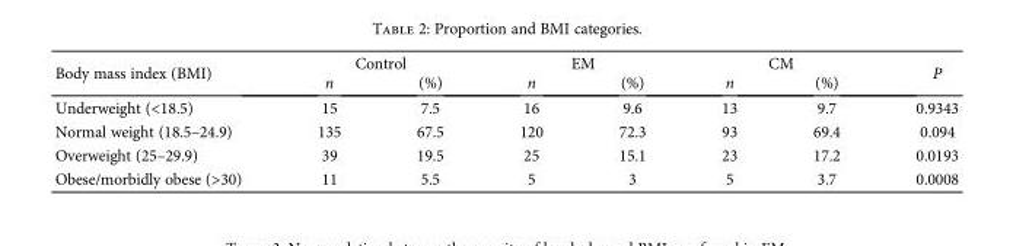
<table><thead><tr><td rowspan="2">Body mass index (BMI)</td><td colspan="2">Control</td><td colspan="2">EM</td><td colspan="2">CM</td><td rowspan="2">P</td></tr><tr><td>n</td><td>(%)</td><td>n</td><td>(%)</td><td>n</td><td>(%)</td></tr></thead><tbody><tr><td>Underweight (&lt;18.5)</td><td>15</td><td>7.5</td><td>16</td><td>9.6</td><td>13</td><td>9.7</td><td>0.9343</td></tr><tr><td>Normal weight (18.5–24.9)</td><td>135</td><td>67.5</td><td>120</td><td>72.3</td><td>93</td><td>69.4</td><td>0.094</td></tr><tr><td>Overweight (25–29.9)</td><td>39</td><td>19.5</td><td>25</td><td>15.1</td><td>23</td><td>17.2</td><td>0.0193</td></tr><tr><td>Obese/morbidly obese (&gt;30)</td><td>11</td><td>5.5</td><td>5</td><td>3</td><td>5</td><td>3.7</td><td>0.0008</td></tr></tbody></table>